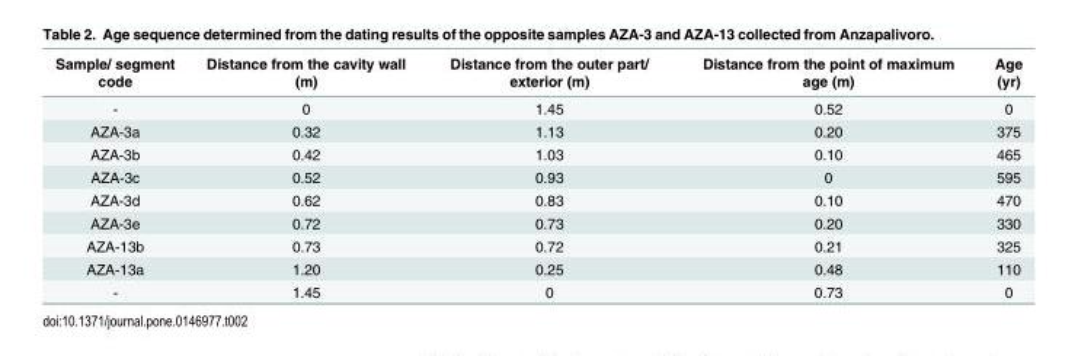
<table><thead><tr><td>Sample/ segment code</td><td>Distance from the cavity wall (m)</td><td>Distance from the outer part/ exterior (m)</td><td>Distance from the point of maximum age (m)</td><td>Age (yr)</td></tr></thead><tbody><tr><td>-</td><td>0</td><td>1.45</td><td>0.52</td><td>0</td></tr><tr><td>AZA-3a</td><td>0.32</td><td>1.13</td><td>0.20</td><td>375</td></tr><tr><td>AZA-3b</td><td>0.42</td><td>1.03</td><td>0.10</td><td>465</td></tr><tr><td>AZA-3c</td><td>0.52</td><td>0.93</td><td>0</td><td>595</td></tr><tr><td>AZA-3d</td><td>0.62</td><td>0.83</td><td>0.10</td><td>470</td></tr><tr><td>AZA-3e</td><td>0.72</td><td>0.73</td><td>0.20</td><td>330</td></tr><tr><td>AZA-13b</td><td>0.73</td><td>0.72</td><td>0.21</td><td>325</td></tr><tr><td>AZA-13a</td><td>1.20</td><td>0.25</td><td>0.48</td><td>110</td></tr><tr><td>-</td><td>1.45</td><td>0</td><td>0.73</td><td>0</td></tr></tbody></table>